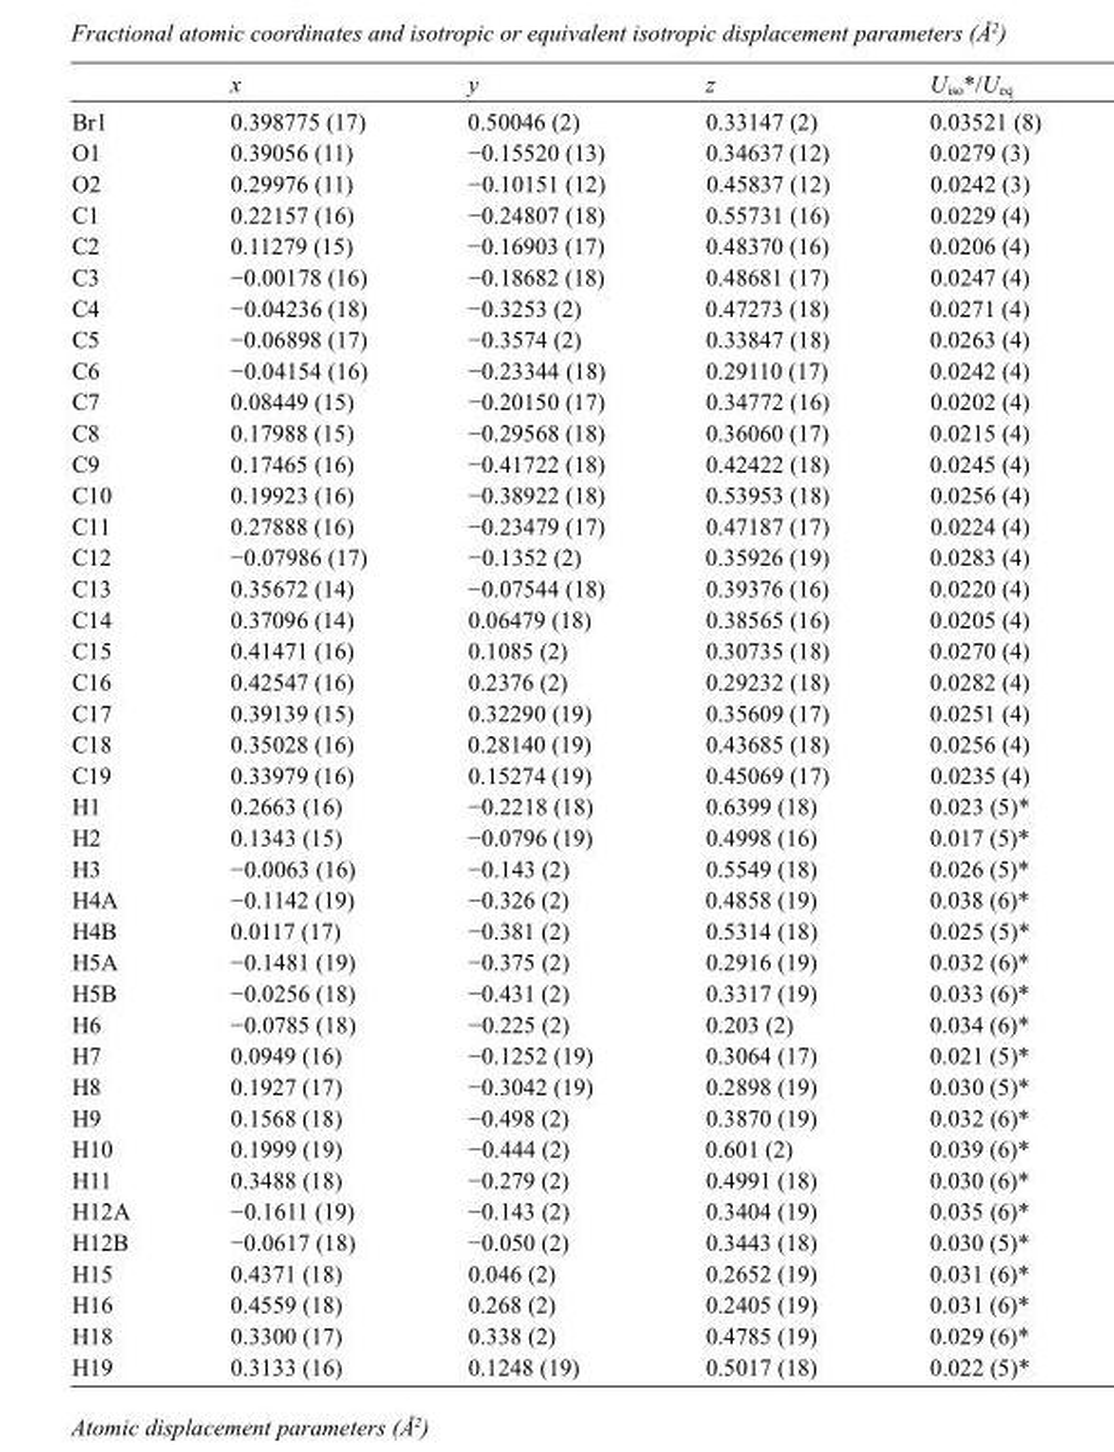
<table><thead><tr><td></td><td>x</td><td>y</td><td>z</td><td>U<sub>iso</sub>*/U<sub>eq</sub></td></tr></thead><tbody><tr><td>Br1</td><td>0.398775 (17)</td><td>0.50046 (2)</td><td>0.33147 (2)</td><td>0.03521 (8)</td></tr><tr><td>O1</td><td>0.39056 (11)</td><td>−0.15520 (13)</td><td>0.34637 (12)</td><td>0.0279 (3)</td></tr><tr><td>O2</td><td>0.29976 (11)</td><td>−0.10151 (12)</td><td>0.45837 (12)</td><td>0.0242 (3)</td></tr><tr><td>C1</td><td>0.22157 (16)</td><td>−0.24807 (18)</td><td>0.55731 (16)</td><td>0.0229 (4)</td></tr><tr><td>C2</td><td>0.11279 (15)</td><td>−0.16903 (17)</td><td>0.48370 (16)</td><td>0.0206 (4)</td></tr><tr><td>C3</td><td>−0.00178 (16)</td><td>−0.18682 (18)</td><td>0.48681 (17)</td><td>0.0247 (4)</td></tr><tr><td>C4</td><td>−0.04236 (18)</td><td>−0.3253 (2)</td><td>0.47273 (18)</td><td>0.0271 (4)</td></tr><tr><td>C5</td><td>−0.06898 (17)</td><td>−0.3574 (2)</td><td>0.33847 (18)</td><td>0.0263 (4)</td></tr><tr><td>C6</td><td>−0.04154 (16)</td><td>−0.23344 (18)</td><td>0.29110 (17)</td><td>0.0242 (4)</td></tr><tr><td>C7</td><td>0.08449 (15)</td><td>−0.20150 (17)</td><td>0.34772 (16)</td><td>0.0202 (4)</td></tr><tr><td>C8</td><td>0.17988 (15)</td><td>−0.29568 (18)</td><td>0.36060 (17)</td><td>0.0215 (4)</td></tr><tr><td>C9</td><td>0.17465 (16)</td><td>−0.41722 (18)</td><td>0.42422 (18)</td><td>0.0245 (4)</td></tr><tr><td>C10</td><td>0.19923 (16)</td><td>−0.38922 (18)</td><td>0.53953 (18)</td><td>0.0256 (4)</td></tr><tr><td>C11</td><td>0.27888 (16)</td><td>−0.23479 (17)</td><td>0.47187 (17)</td><td>0.0224 (4)</td></tr><tr><td>C12</td><td>−0.07986 (17)</td><td>−0.1352 (2)</td><td>0.35926 (19)</td><td>0.0283 (4)</td></tr><tr><td>C13</td><td>0.35672 (14)</td><td>−0.07544 (18)</td><td>0.39376 (16)</td><td>0.0220 (4)</td></tr><tr><td>C14</td><td>0.37096 (14)</td><td>0.06479 (18)</td><td>0.38565 (16)</td><td>0.0205 (4)</td></tr><tr><td>C15</td><td>0.41471 (16)</td><td>0.1085 (2)</td><td>0.30735 (18)</td><td>0.0270 (4)</td></tr><tr><td>C16</td><td>0.42547 (16)</td><td>0.2376 (2)</td><td>0.29232 (18)</td><td>0.0282 (4)</td></tr><tr><td>C17</td><td>0.39139 (15)</td><td>0.32290 (19)</td><td>0.35609 (17)</td><td>0.0251 (4)</td></tr><tr><td>C18</td><td>0.35028 (16)</td><td>0.28140 (19)</td><td>0.43685 (18)</td><td>0.0256 (4)</td></tr><tr><td>C19</td><td>0.33979 (16)</td><td>0.15274 (19)</td><td>0.45069 (17)</td><td>0.0235 (4)</td></tr><tr><td>H1</td><td>0.2663 (16)</td><td>−0.2218 (18)</td><td>0.6399 (18)</td><td>0.023 (5)*</td></tr><tr><td>H2</td><td>0.1343 (15)</td><td>−0.0796 (19)</td><td>0.4998 (16)</td><td>0.017 (5)*</td></tr><tr><td>H3</td><td>−0.0063 (16)</td><td>−0.143 (2)</td><td>0.5549 (18)</td><td>0.026 (5)*</td></tr><tr><td>H4A</td><td>−0.1142 (19)</td><td>−0.326 (2)</td><td>0.4858 (19)</td><td>0.038 (6)*</td></tr><tr><td>H4B</td><td>0.0117 (17)</td><td>−0.381 (2)</td><td>0.5314 (18)</td><td>0.025 (5)*</td></tr><tr><td>H5A</td><td>−0.1481 (19)</td><td>−0.375 (2)</td><td>0.2916 (19)</td><td>0.032 (6)*</td></tr><tr><td>H5B</td><td>−0.0256 (18)</td><td>−0.431 (2)</td><td>0.3317 (19)</td><td>0.033 (6)*</td></tr><tr><td>H6</td><td>−0.0785 (18)</td><td>−0.225 (2)</td><td>0.203 (2)</td><td>0.034 (6)*</td></tr><tr><td>H7</td><td>0.0949 (16)</td><td>−0.1252 (19)</td><td>0.3064 (17)</td><td>0.021 (5)*</td></tr><tr><td>H8</td><td>0.1927 (17)</td><td>−0.3042 (19)</td><td>0.2898 (19)</td><td>0.030 (5)*</td></tr><tr><td>H9</td><td>0.1568 (18)</td><td>−0.498 (2)</td><td>0.3870 (19)</td><td>0.032 (6)*</td></tr><tr><td>H10</td><td>0.1999 (19)</td><td>−0.444 (2)</td><td>0.601 (2)</td><td>0.039 (6)*</td></tr><tr><td>H11</td><td>0.3488 (18)</td><td>−0.279 (2)</td><td>0.4991 (18)</td><td>0.030 (6)*</td></tr><tr><td>H12A</td><td>−0.1611 (19)</td><td>−0.143 (2)</td><td>0.3404 (19)</td><td>0.035 (6)*</td></tr><tr><td>H12B</td><td>−0.0617 (18)</td><td>−0.050 (2)</td><td>0.3443 (18)</td><td>0.030 (5)*</td></tr><tr><td>H15</td><td>0.4371 (18)</td><td>0.046 (2)</td><td>0.2652 (19)</td><td>0.031 (6)*</td></tr><tr><td>H16</td><td>0.4559 (18)</td><td>0.268 (2)</td><td>0.2405 (19)</td><td>0.031 (6)*</td></tr><tr><td>H18</td><td>0.3300 (17)</td><td>0.338 (2)</td><td>0.4785 (19)</td><td>0.029 (6)*</td></tr><tr><td>H19</td><td>0.3133 (16)</td><td>0.1248 (19)</td><td>0.5017 (18)</td><td>0.022 (5)*</td></tr></tbody></table>